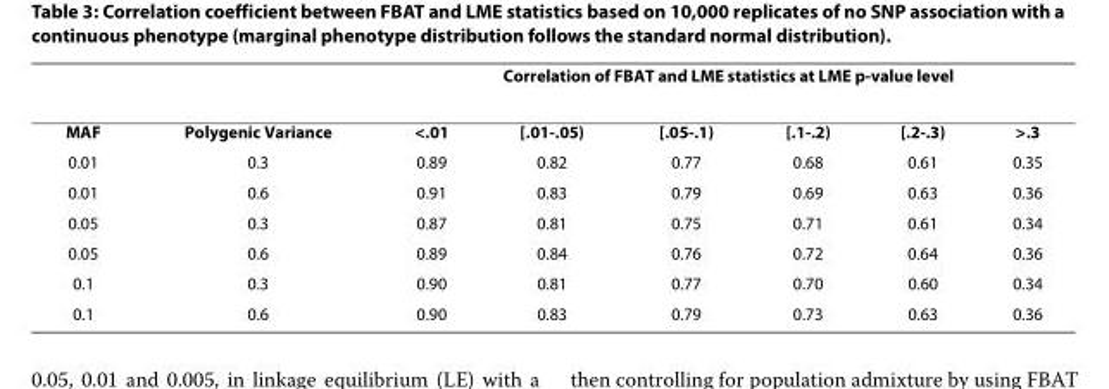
<table><thead><tr><td rowspan="2">MAF</td><td rowspan="2">Polygenic Variance</td><td colspan="6">Correlation of FBAT and LME statistics at LME p-value level</td></tr><tr><td>&lt;.01</td><td>[.01-.05)</td><td>[.05-.1)</td><td>[.1-.2)</td><td>[.2-.3)</td><td>&gt;.3</td></tr></thead><tbody><tr><td>0.01</td><td>0.3</td><td>0.89</td><td>0.82</td><td>0.77</td><td>0.68</td><td>0.61</td><td>0.35</td></tr><tr><td>0.01</td><td>0.6</td><td>0.91</td><td>0.83</td><td>0.79</td><td>0.69</td><td>0.63</td><td>0.36</td></tr><tr><td>0.05</td><td>0.3</td><td>0.87</td><td>0.81</td><td>0.75</td><td>0.71</td><td>0.61</td><td>0.34</td></tr><tr><td>0.05</td><td>0.6</td><td>0.89</td><td>0.84</td><td>0.76</td><td>0.72</td><td>0.64</td><td>0.36</td></tr><tr><td>0.1</td><td>0.3</td><td>0.90</td><td>0.81</td><td>0.77</td><td>0.70</td><td>0.60</td><td>0.34</td></tr><tr><td>0.1</td><td>0.6</td><td>0.90</td><td>0.83</td><td>0.79</td><td>0.73</td><td>0.63</td><td>0.36</td></tr></tbody></table>